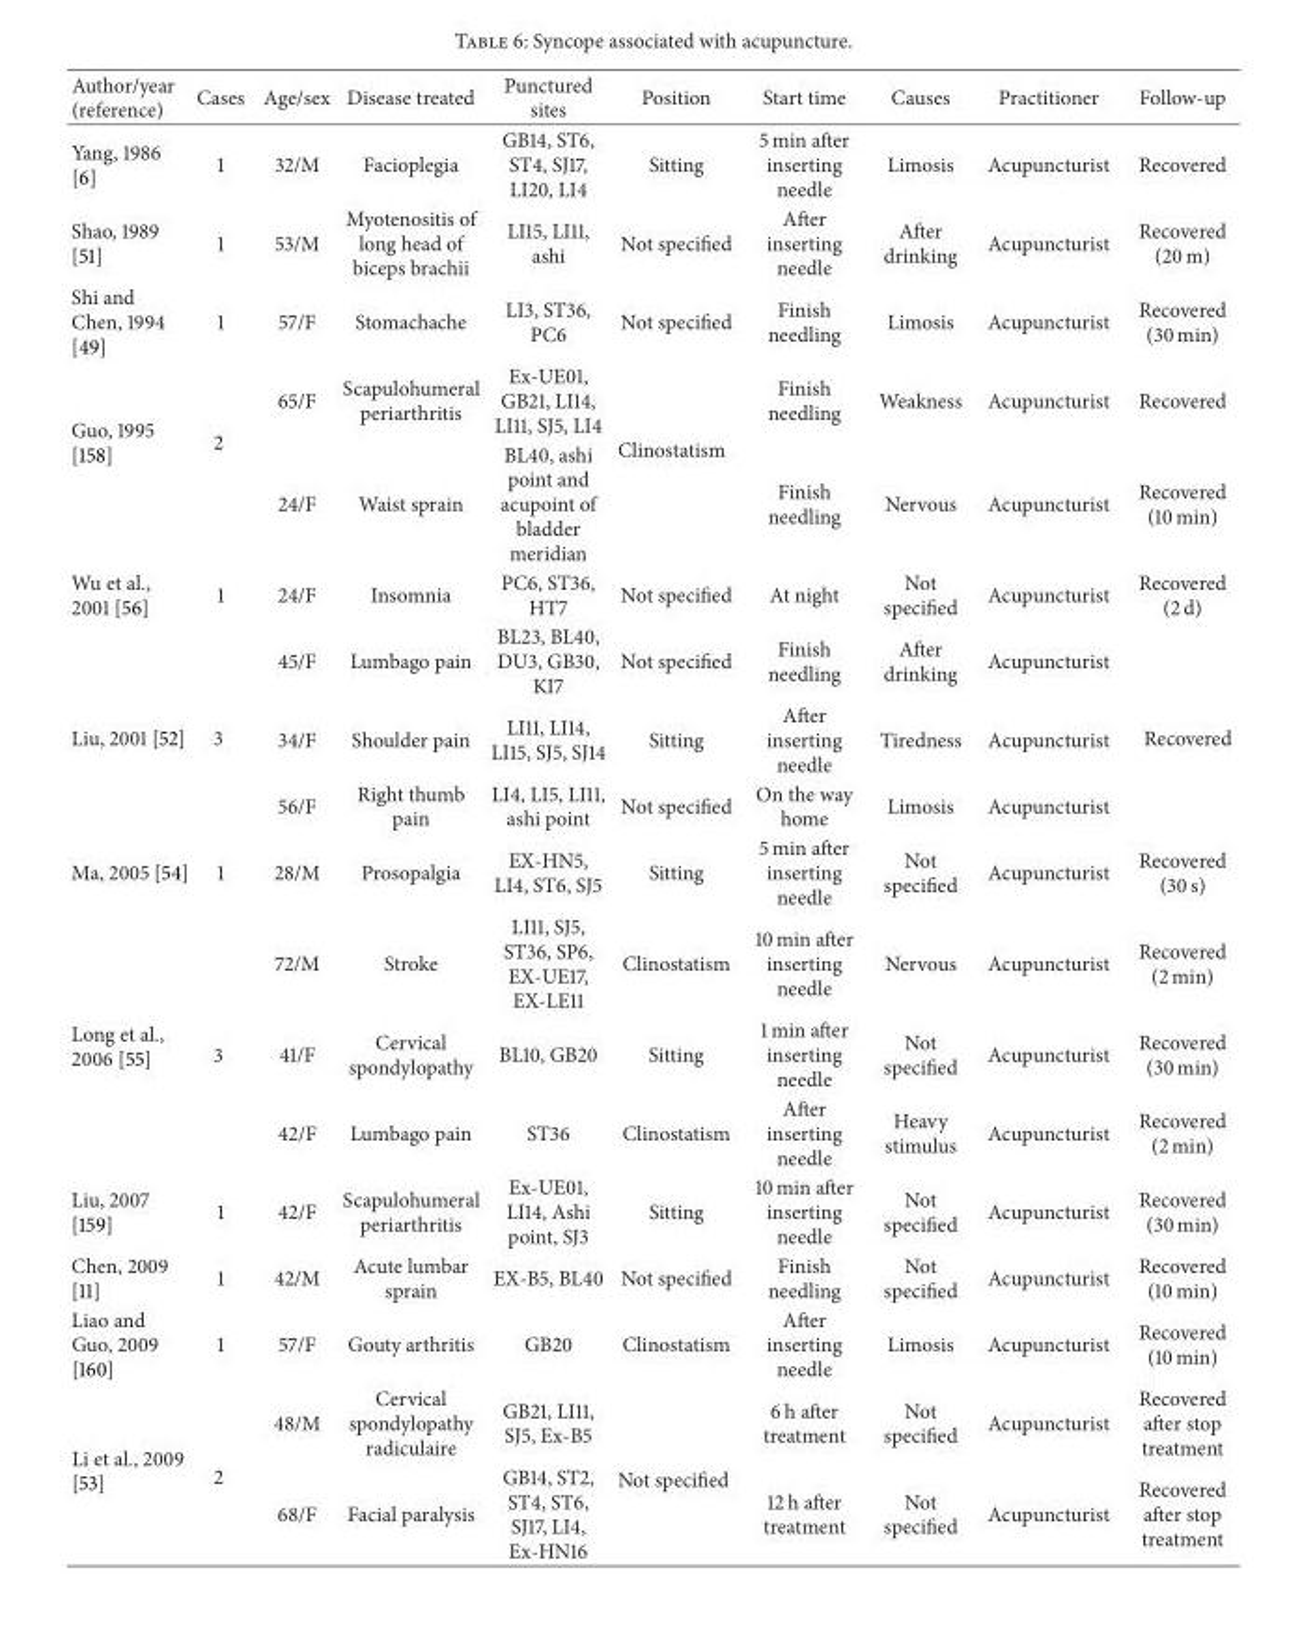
<table><thead><tr><td>Author/year (reference)</td><td>Cases</td><td>Age/sex</td><td>Disease treated</td><td>Punctured sites</td><td>Position</td><td>Start time</td><td>Causes</td><td>Practitioner</td><td>Follow-up</td></tr></thead><tbody><tr><td>Yang, 1986 [6]</td><td>1</td><td>32/M</td><td>Facioplegia</td><td>GB14, ST6, ST4, SJ17, LI20, LI4</td><td>Sitting</td><td>5 min after inserting needle</td><td>Limosis</td><td>Acupuncturist</td><td>Recovered</td></tr><tr><td>Shao, 1989 [51]</td><td>1</td><td>53/M</td><td>Myotenositis of long head of biceps brachii</td><td>LI15, LI11, ashi</td><td>Not specified</td><td>After inserting needle</td><td>After drinking</td><td>Acupuncturist</td><td>Recovered (20 m)</td></tr><tr><td>Shi and Chen, 1994 [49]</td><td>1</td><td>57/F</td><td>Stomachache</td><td>LI3, ST36, PC6</td><td>Not specified</td><td>Finish needling</td><td>Limosis</td><td>Acupuncturist</td><td>Recovered (30 min)</td></tr><tr><td rowspan="2">Guo, 1995 [158]</td><td rowspan="2">2</td><td>65/F</td><td>Scapulohumeral periarthritis</td><td>Ex-UE01, GB21, LI14, LI11, SJ5, LI4</td><td rowspan="2">Clinostatism</td><td>Finish needling</td><td>Weakness</td><td>Acupuncturist</td><td>Recovered</td></tr><tr><td>24/F</td><td>Waist sprain</td><td>BL40, ashi point and acupoint of bladder meridian</td><td>Finish needling</td><td>Nervous</td><td>Acupuncturist</td><td>Recovered (10 min)</td></tr><tr><td>Wu et al., 2001 [56]</td><td>1</td><td>24/F</td><td>Insomnia</td><td>PC6, ST36, HT7</td><td>Not specified</td><td>At night</td><td>Not specified</td><td>Acupuncturist</td><td>Recovered (2 d)</td></tr><tr><td rowspan="3">Liu, 2001 [52]</td><td rowspan="3">3</td><td>45/F</td><td>Lumbago pain</td><td>BL23, BL40, DU3, GB30, KI7</td><td>Not specified</td><td>Finish needling</td><td>After drinking</td><td>Acupuncturist</td><td rowspan="3">Recovered</td></tr><tr><td>34/F</td><td>Shoulder pain</td><td>LI11, LI14, LI15, SJ5, SJ14</td><td>Sitting</td><td>After inserting needle</td><td>Tiredness</td><td>Acupuncturist</td></tr><tr><td>56/F</td><td>Right thumb pain</td><td>LI4, LI5, LI11, ashi point</td><td>Not specified</td><td>On the way home</td><td>Limosis</td><td>Acupuncturist</td></tr><tr><td>Ma, 2005 [54]</td><td>1</td><td>28/M</td><td>Prosopalgia</td><td>EX-HN5, LI4, ST6, SJ5</td><td>Sitting</td><td>5 min after inserting needle</td><td>Not specified</td><td>Acupuncturist</td><td>Recovered (30 s)</td></tr><tr><td rowspan="3">Long et al., 2006 [55]</td><td rowspan="3">3</td><td>72/M</td><td>Stroke</td><td>LI11, SJ5, ST36, SP6, EX-UE17, EX-LE11</td><td>Clinostatism</td><td>10 min after inserting needle</td><td>Nervous</td><td>Acupuncturist</td><td>Recovered (2 min)</td></tr><tr><td>41/F</td><td>Cervical spondylopathy</td><td>BL10, GB20</td><td>Sitting</td><td>1 min after inserting needle</td><td>Not specified</td><td>Acupuncturist</td><td>Recovered (30 min)</td></tr><tr><td>42/F</td><td>Lumbago pain</td><td>ST36</td><td>Clinostatism</td><td>After inserting needle</td><td>Heavy stimulus</td><td>Acupuncturist</td><td>Recovered (2 min)</td></tr><tr><td>Liu, 2007 [159]</td><td>1</td><td>42/F</td><td>Scapulohumeral periarthritis</td><td>Ex-UE01, LI14, Ashi point, SJ3</td><td>Sitting</td><td>10 min after inserting needle</td><td>Not specified</td><td>Acupuncturist</td><td>Recovered (30 min)</td></tr><tr><td>Chen, 2009 [11]</td><td>1</td><td>42/M</td><td>Acute lumbar sprain</td><td>EX-B5, BL40</td><td>Not specified</td><td>Finish needling</td><td>Not specified</td><td>Acupuncturist</td><td>Recovered (10 min)</td></tr><tr><td>Liao and Guo, 2009 [160]</td><td>1</td><td>57/F</td><td>Gouty arthritis</td><td>GB20</td><td>Clinostatism</td><td>After inserting needle</td><td>Limosis</td><td>Acupuncturist</td><td>Recovered (10 min)</td></tr><tr><td rowspan="2">Li et al., 2009 [53]</td><td rowspan="2">2</td><td>48/M</td><td>Cervical spondylopathy radiculaire</td><td>GB21, LI11, SJ5, Ex-B5</td><td rowspan="2">Not specified</td><td>6 h after treatment</td><td>Not specified</td><td>Acupuncturist</td><td>Recovered after stop treatment</td></tr><tr><td>68/F</td><td>Facial paralysis</td><td>GB14, ST2, ST4, ST6, SJ17, LI4, Ex-HN16</td><td>12 h after treatment</td><td>Not specified</td><td>Acupuncturist</td><td>Recovered after stop treatment</td></tr></tbody></table>